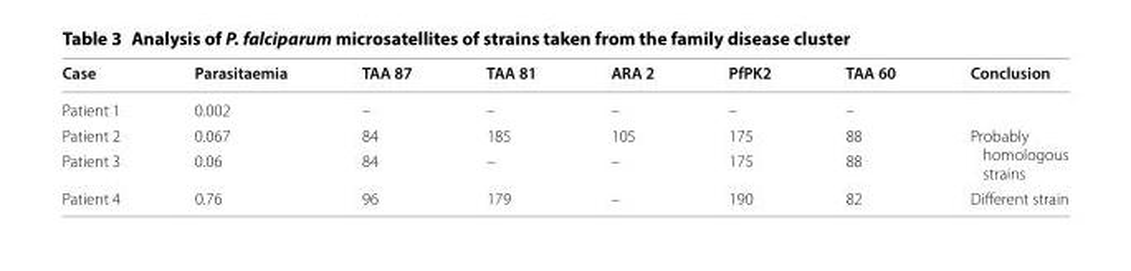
<table><thead><tr><td>Case</td><td>Parasitaemia</td><td>TAA 87</td><td>TAA 81</td><td>ARA 2</td><td>PfPK2</td><td>TAA 60</td><td>Conclusion</td></tr></thead><tbody><tr><td>Patient 1</td><td>0.002</td><td>–</td><td>–</td><td>–</td><td>–</td><td>–</td><td></td></tr><tr><td>Patient 2</td><td>0.067</td><td>84</td><td>185</td><td>105</td><td>175</td><td>88</td><td rowspan="2">Probably homologous strains</td></tr><tr><td>Patient 3</td><td>0.06</td><td>84</td><td>–</td><td>–</td><td>175</td><td>88</td></tr><tr><td>Patient 4</td><td>0.76</td><td>96</td><td>179</td><td>–</td><td>190</td><td>82</td><td>Different strain</td></tr></tbody></table>